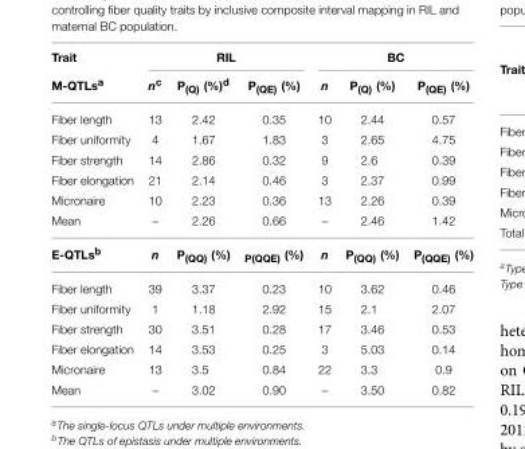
<table><thead><tr><td rowspan="2">Trait M-QTLs<sup>a</sup></td><td colspan="3">RIL</td><td colspan="3">BC</td></tr><tr><td>n<sup>c</sup></td><td>P<sub>(Q)</sub> (%)<sup>d</sup></td><td>P<sub>(QE)</sub> (%)</td><td>n</td><td>P<sub>(Q)</sub> (%)</td><td>P<sub>(QE)</sub> (%)</td></tr></thead><tbody><tr><td>Fiber length</td><td>13</td><td>2.42</td><td>0.35</td><td>10</td><td>2.44</td><td>0.57</td></tr><tr><td>Fiber uniformity</td><td>4</td><td>1.67</td><td>1.83</td><td>3</td><td>2.65</td><td>4.75</td></tr><tr><td>Fiber strength</td><td>14</td><td>2.86</td><td>0.32</td><td>9</td><td>2.6</td><td>0.39</td></tr><tr><td>Fiber elongation</td><td>21</td><td>2.14</td><td>0.46</td><td>3</td><td>2.37</td><td>0.99</td></tr><tr><td>Micronaire</td><td>10</td><td>2.23</td><td>0.36</td><td>13</td><td>2.26</td><td>0.39</td></tr><tr><td>Mean</td><td>–</td><td>2.26</td><td>0.66</td><td>–</td><td>2.46</td><td>1.42</td></tr><tr><td>E-QTLs<sup>b</sup></td><td>n</td><td>P<sub>(QQ)</sub> (%)</td><td>P<sub>(QQE)</sub> (%)</td><td>n</td><td>P<sub>(QQ)</sub> (%)</td><td>P<sub>(QQE)</sub> (%)</td></tr><tr><td>Fiber length</td><td>39</td><td>3.37</td><td>0.23</td><td>10</td><td>3.62</td><td>0.46</td></tr><tr><td>Fiber uniformity</td><td>1</td><td>1.18</td><td>2.92</td><td>15</td><td>2.1</td><td>2.07</td></tr><tr><td>Fiber strength</td><td>30</td><td>3.51</td><td>0.28</td><td>17</td><td>3.46</td><td>0.53</td></tr><tr><td>Fiber elongation</td><td>14</td><td>3.53</td><td>0.25</td><td>3</td><td>5.03</td><td>0.14</td></tr><tr><td>Micronaire</td><td>13</td><td>3.5</td><td>0.84</td><td>22</td><td>3.3</td><td>0.9</td></tr><tr><td>Mean</td><td>–</td><td>3.02</td><td>0.90</td><td>–</td><td>3.50</td><td>0.82</td></tr></tbody></table>